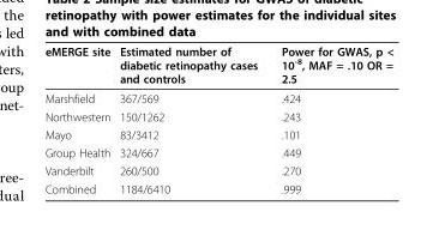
<table><tbody><tr><td>eMERGE site</td><td>Estimated number of diabetic retinopathy cases and controls</td><td>Power for GWAS, p &lt; 10<sup>-8</sup>, MAF = .10 OR = 2.5</td></tr><tr><td>Marshfield</td><td>367/569</td><td>.424</td></tr><tr><td>Northwestern</td><td>150/1262</td><td>.243</td></tr><tr><td>Mayo</td><td>83/3412</td><td>.101</td></tr><tr><td>Group Health</td><td>324/667</td><td>.449</td></tr><tr><td>Vanderbilt</td><td>260/500</td><td>.270</td></tr><tr><td>Combined</td><td>1184/6410</td><td>.999</td></tr></tbody></table>